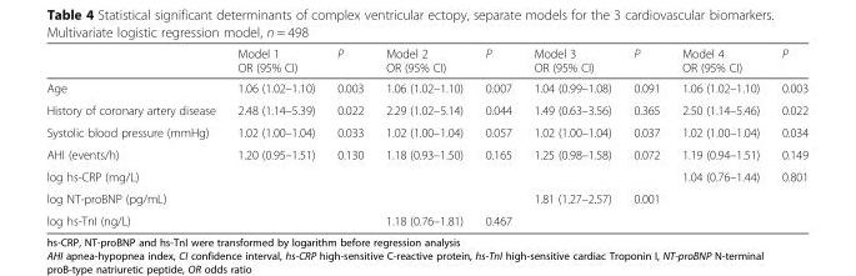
<table><thead><tr><td></td><td>Model 1 OR (95% CI)</td><td>P</td><td>Model 2 OR (95% CI)</td><td>P</td><td>Model 3 OR (95% CI)</td><td>P</td><td>Model 4 OR (95% CI)</td><td>P</td></tr></thead><tbody><tr><td>Age</td><td>1.06 (1.02–1.10)</td><td>0.003</td><td>1.06 (1.02–1.10)</td><td>0.007</td><td>1.04 (0.99–1.08)</td><td>0.091</td><td>1.06 (1.02–1.10)</td><td>0.003</td></tr><tr><td>History of coronary artery disease</td><td>2.48 (1.14–5.39)</td><td>0.022</td><td>2.29 (1.02–5.14)</td><td>0.044</td><td>1.49 (0.63–3.56)</td><td>0.365</td><td>2.50 (1.14–5.46)</td><td>0.022</td></tr><tr><td>Systolic blood pressure (mmHg)</td><td>1.02 (1.00–1.04)</td><td>0.033</td><td>1.02 (1.00–1.04)</td><td>0.057</td><td>1.02 (1.00–1.04)</td><td>0.037</td><td>1.02 (1.00–1.04)</td><td>0.034</td></tr><tr><td>AHI (events/h)</td><td>1.20 (0.95–1.51)</td><td>0.130</td><td>1.18 (0.93–1.50)</td><td>0.165</td><td>1.25 (0.98–1.58)</td><td>0.072</td><td>1.19 (0.94–1.51)</td><td>0.149</td></tr><tr><td>log hs-CRP (mg/L)</td><td></td><td></td><td></td><td></td><td></td><td></td><td>1.04 (0.76–1.44)</td><td>0.801</td></tr><tr><td>log NT-proBNP (pg/mL)</td><td></td><td></td><td></td><td></td><td>1.81 (1.27–2.57)</td><td>0.001</td><td></td><td></td></tr><tr><td>log hs-TnI (ng/L)</td><td></td><td></td><td>1.18 (0.76–1.81)</td><td>0.467</td><td></td><td></td><td></td><td></td></tr></tbody></table>